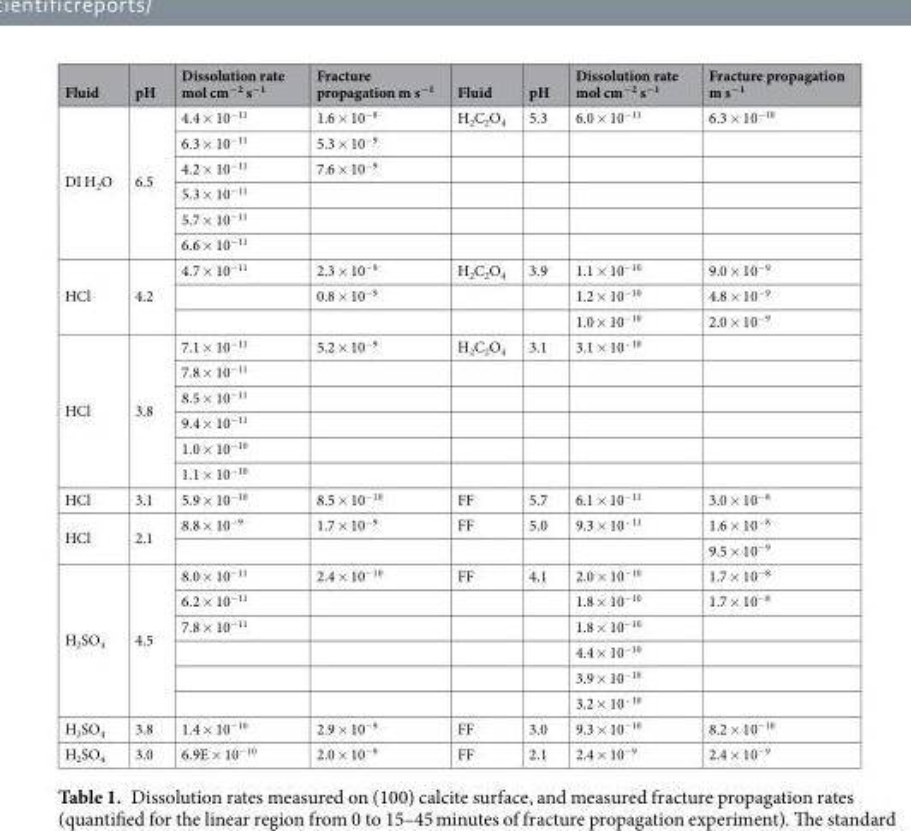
<table><thead><tr><td>Fluid</td><td>pH</td><td>Dissolution rate mol cm<sup>−2</sup> s<sup>−1</sup></td><td>Fracture propagation m s<sup>−1</sup></td><td>Fluid</td><td>pH</td><td>Dissolution rate mol cm<sup>−2</sup> s<sup>−1</sup></td><td>Fracture propagation m s<sup>−1</sup></td></tr></thead><tbody><tr><td rowspan="6">DI H<sub>2</sub>O</td><td rowspan="6">6.5</td><td>4.4 × 10<sup>−11</sup></td><td>1.6 × 10<sup>−8</sup></td><td>H<sub>2</sub>C<sub>2</sub>O<sub>4</sub></td><td>5.3</td><td>6.0 × 10<sup>−11</sup></td><td>6.3 × 10<sup>−10</sup></td></tr><tr><td>6.3 × 10<sup>−11</sup></td><td>5.3 × 10<sup>−9</sup></td><td></td><td></td><td></td><td></td></tr><tr><td>4.2 × 10<sup>−11</sup></td><td>7.6 × 10<sup>−9</sup></td><td></td><td></td><td></td><td></td></tr><tr><td>5.3 × 10<sup>−11</sup></td><td></td><td></td><td></td><td></td><td></td></tr><tr><td>5.7 × 10<sup>−11</sup></td><td></td><td></td><td></td><td></td><td></td></tr><tr><td>6.6 × 10<sup>−11</sup></td><td></td><td></td><td></td><td></td><td></td></tr><tr><td rowspan="3">HCl</td><td rowspan="3">4.2</td><td>4.7 × 10<sup>−11</sup></td><td>2.3 × 10<sup>−9</sup></td><td>H<sub>2</sub>C<sub>2</sub>O<sub>4</sub></td><td>3.9</td><td>1.1 × 10<sup>−10</sup></td><td>9.0 × 10<sup>−9</sup></td></tr><tr><td></td><td>0.8 × 10<sup>−9</sup></td><td></td><td></td><td>1.2 × 10<sup>−10</sup></td><td>4.8 × 10<sup>−9</sup></td></tr><tr><td></td><td></td><td></td><td></td><td>1.0 × 10<sup>−10</sup></td><td>2.0 × 10<sup>−9</sup></td></tr><tr><td rowspan="6">HCl</td><td rowspan="6">3.8</td><td>7.1 × 10<sup>−11</sup></td><td>5.2 × 10<sup>−9</sup></td><td>H<sub>2</sub>C<sub>2</sub>O<sub>4</sub></td><td>3.1</td><td>3.1 × 10<sup>−10</sup></td><td></td></tr><tr><td>7.8 × 10<sup>−11</sup></td><td></td><td></td><td></td><td></td><td></td></tr><tr><td>8.5 × 10<sup>−11</sup></td><td></td><td></td><td></td><td></td><td></td></tr><tr><td>9.4 × 10<sup>−11</sup></td><td></td><td></td><td></td><td></td><td></td></tr><tr><td>1.0 × 10<sup>−10</sup></td><td></td><td></td><td></td><td></td><td></td></tr><tr><td>1.1 × 10<sup>−10</sup></td><td></td><td></td><td></td><td></td><td></td></tr><tr><td>HCl</td><td>3.1</td><td>5.9 × 10<sup>−10</sup></td><td>8.5 × 10<sup>−10</sup></td><td>FF</td><td>5.7</td><td>6.1 × 10<sup>−11</sup></td><td>3.0 × 10<sup>−8</sup></td></tr><tr><td rowspan="2">HCl</td><td rowspan="2">2.1</td><td>8.8 × 10<sup>−9</sup></td><td>1.7 × 10<sup>−9</sup></td><td>FF</td><td>5.0</td><td>9.3 × 10<sup>−11</sup></td><td>1.6 × 10<sup>−8</sup></td></tr><tr><td></td><td></td><td></td><td></td><td></td><td>9.5 × 10<sup>−9</sup></td></tr><tr><td rowspan="6">H<sub>2</sub>SO<sub>4</sub></td><td rowspan="6">4.5</td><td>8.0 × 10<sup>−11</sup></td><td>2.4 × 10<sup>−10</sup></td><td>FF</td><td>4.1</td><td>2.0 × 10<sup>−10</sup></td><td>1.7 × 10<sup>−8</sup></td></tr><tr><td>6.2 × 10<sup>−11</sup></td><td></td><td></td><td></td><td>1.8 × 10<sup>−10</sup></td><td>1.7 × 10<sup>−8</sup></td></tr><tr><td>7.8 × 10<sup>−11</sup></td><td></td><td></td><td></td><td>1.8 × 10<sup>−10</sup></td><td></td></tr><tr><td></td><td></td><td></td><td></td><td>4.4 × 10<sup>−10</sup></td><td></td></tr><tr><td></td><td></td><td></td><td></td><td>3.9 × 10<sup>−10</sup></td><td></td></tr><tr><td></td><td></td><td></td><td></td><td>3.2 × 10<sup>−10</sup></td><td></td></tr><tr><td>H<sub>2</sub>SO<sub>4</sub></td><td>3.8</td><td>1.4 × 10<sup>−10</sup></td><td>2.9 × 10<sup>−9</sup></td><td>FF</td><td>3.0</td><td>9.3 × 10<sup>−10</sup></td><td>8.2 × 10<sup>−10</sup></td></tr><tr><td>H<sub>2</sub>SO<sub>4</sub></td><td>3.0</td><td>6.9E × 10<sup>−10</sup></td><td>2.0 × 10<sup>−9</sup></td><td>FF</td><td>2.1</td><td>2.4 × 10<sup>−9</sup></td><td>2.4 × 10<sup>−9</sup></td></tr></tbody></table>